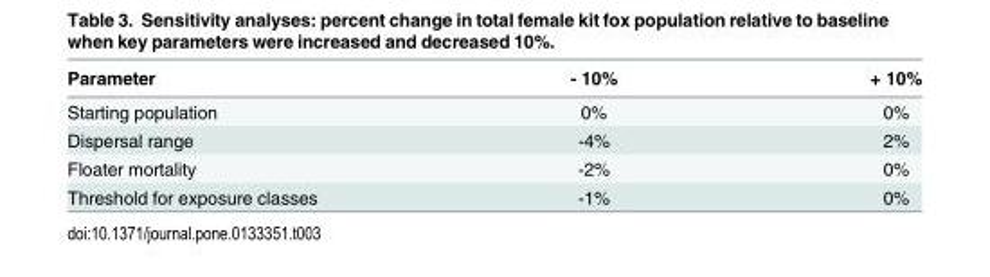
<table><thead><tr><td>Parameter</td><td>- 10%</td><td>+ 10%</td></tr></thead><tbody><tr><td>Starting population</td><td>0%</td><td>0%</td></tr><tr><td>Dispersal range</td><td>-4%</td><td>2%</td></tr><tr><td>Floater mortality</td><td>-2%</td><td>0%</td></tr><tr><td>Threshold for exposure classes</td><td>-1%</td><td>0%</td></tr></tbody></table>